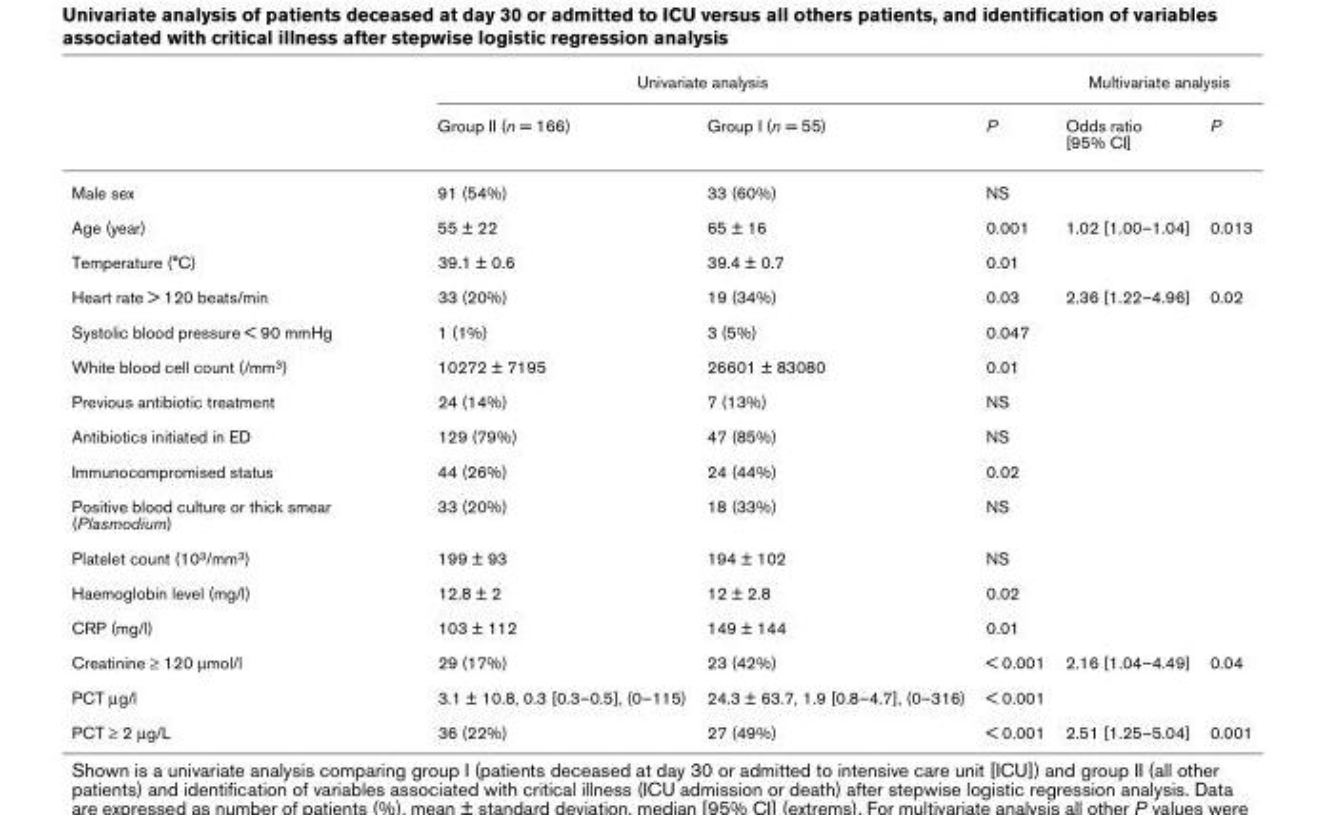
<table><thead><tr><td rowspan="2"></td><td colspan="2">Univariate analysis</td><td rowspan="2">P</td><td colspan="2">Multivariate analysis</td></tr><tr><td>Group II (n = 166)</td><td>Group I (n = 55)</td><td>Odds ratio [95% CI]</td><td>P</td></tr></thead><tbody><tr><td>Male sex</td><td>91 (54%)</td><td>33 (60%)</td><td>NS</td><td></td><td></td></tr><tr><td>Age (year)</td><td>55 ± 22</td><td>65 ± 16</td><td>0.001</td><td>1.02 [1.00–1.04]</td><td>0.013</td></tr><tr><td>Temperature (°C)</td><td>39.1 ± 0.6</td><td>39.4 ± 0.7</td><td>0.01</td><td></td><td></td></tr><tr><td>Heart rate &gt; 120 beats/min</td><td>33 (20%)</td><td>19 (34%)</td><td>0.03</td><td>2.36 [1.22–4.96]</td><td>0.02</td></tr><tr><td>Systolic blood pressure &lt; 90 mmHg</td><td>1 (1%)</td><td>3 (5%)</td><td>0.047</td><td></td><td></td></tr><tr><td>White blood cell count (/mm<sup>3</sup>)</td><td>10272 ± 7195</td><td>26601 ± 83080</td><td>0.01</td><td></td><td></td></tr><tr><td>Previous antibiotic treatment</td><td>24 (14%)</td><td>7 (13%)</td><td>NS</td><td></td><td></td></tr><tr><td>Antibiotics initiated in ED</td><td>129 (79%)</td><td>47 (85%)</td><td>NS</td><td></td><td></td></tr><tr><td>Immunocompromised status</td><td>44 (26%)</td><td>24 (44%)</td><td>0.02</td><td></td><td></td></tr><tr><td>Positive blood culture or thick smear (Plasmodium)</td><td>33 (20%)</td><td>18 (33%)</td><td>NS</td><td></td><td></td></tr><tr><td>Platelet count (10<sup>3</sup>/mm<sup>3</sup>)</td><td>199 ± 93</td><td>194 ± 102</td><td>NS</td><td></td><td></td></tr><tr><td>Haemoglobin level (mg/l)</td><td>12.8 ± 2</td><td>12 ± 2.8</td><td>0.02</td><td></td><td></td></tr><tr><td>CRP (mg/l)</td><td>103 ± 112</td><td>149 ± 144</td><td>0.01</td><td></td><td></td></tr><tr><td>Creatinine ≥ 120 μmol/l</td><td>29 (17%)</td><td>23 (42%)</td><td>&lt; 0.001</td><td>2.16 [1.04–4.49]</td><td>0.04</td></tr><tr><td>PCT μg/l</td><td>3.1 ± 10.8, 0.3 [0.3–0.5], (0–115)</td><td>24.3 ± 63.7, 1.9 [0.8–4.7], (0–316)</td><td>&lt; 0.001</td><td></td><td></td></tr><tr><td>PCT ≥ 2 μg/L</td><td>36 (22%)</td><td>27 (49%)</td><td>&lt; 0.001</td><td>2.51 [1.25–5.04]</td><td>0.001</td></tr></tbody></table>